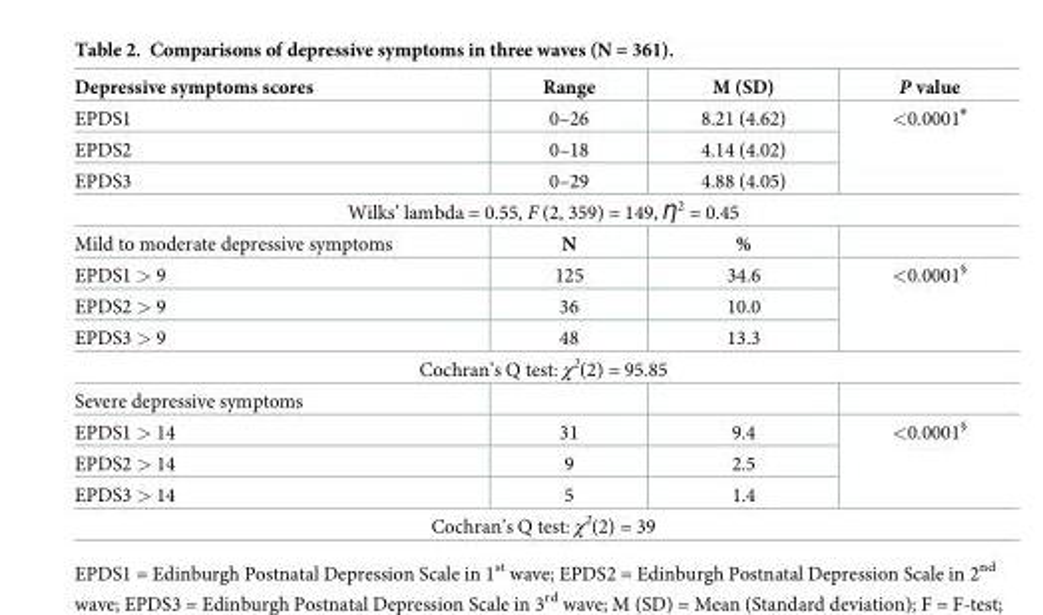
<table><thead><tr><td>Depressive symptoms scores</td><td>Range</td><td>M (SD)</td><td>P value</td></tr></thead><tbody><tr><td>EPDS1</td><td>0–26</td><td>8.21 (4.62)</td><td rowspan="3">&lt;0.0001<sup>#</sup></td></tr><tr><td>EPDS2</td><td>0–18</td><td>4.14 (4.02)</td></tr><tr><td>EPDS3</td><td>0–29</td><td>4.88 (4.05)</td></tr><tr><td colspan="4">Wilks’ lambda = 0.55, F (2, 359) = 149, Ƞ<sup>2</sup> = 0.45</td></tr><tr><td>Mild to moderate depressive symptoms</td><td>N</td><td>%</td><td></td></tr><tr><td>EPDS1 &gt; 9</td><td>125</td><td>34.6</td><td rowspan="3">&lt;0.0001<sup>§</sup></td></tr><tr><td>EPDS2 &gt; 9</td><td>36</td><td>10.0</td></tr><tr><td>EPDS3 &gt; 9</td><td>48</td><td>13.3</td></tr><tr><td colspan="4">Cochran’s Q test: χ<sup>2</sup>(2) = 95.85</td></tr><tr><td colspan="4">Severe depressive symptoms</td></tr><tr><td>EPDS1 &gt; 14</td><td>31</td><td>9.4</td><td rowspan="3">&lt;0.0001<sup>§</sup></td></tr><tr><td>EPDS2 &gt; 14</td><td>9</td><td>2.5</td></tr><tr><td>EPDS3 &gt; 14</td><td>5</td><td>1.4</td></tr><tr><td colspan="4">Cochran’s Q test: χ<sup>2</sup>(2) = 39</td></tr></tbody></table>